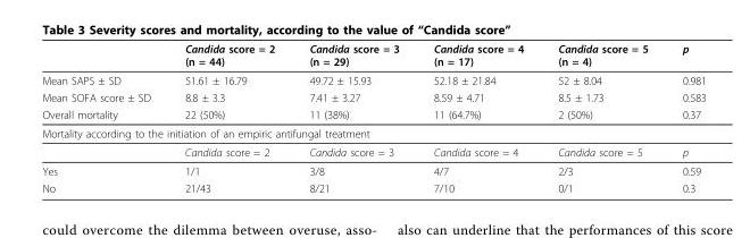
<table><thead><tr><td></td><td>Candida score = 2 (n = 44)</td><td>Candida score = 3 (n = 29)</td><td>Candida score = 4 (n = 17)</td><td>Candida score = 5 (n = 4)</td><td>p</td></tr></thead><tbody><tr><td>Mean SAPS ± SD</td><td>51.61 ± 16.79</td><td>49.72 ± 15.93</td><td>52.18 ± 21.84</td><td>52 ± 8.04</td><td>0.981</td></tr><tr><td>Mean SOFA score ± SD</td><td>8.8 ± 3.3</td><td>7.41 ± 3.27</td><td>8.59 ± 4.71</td><td>8.5 ± 1.73</td><td>0.583</td></tr><tr><td>Overall mortality</td><td>22 (50%)</td><td>11 (38%)</td><td>11 (64.7%)</td><td>2 (50%)</td><td>0.37</td></tr><tr><td colspan="6">Mortality according to the initiation of an empiric antifungal treatment</td></tr><tr><td></td><td>Candida score = 2</td><td>Candida score = 3</td><td>Candida score = 4</td><td>Candida score = 5</td><td>p</td></tr><tr><td>Yes</td><td>1/1</td><td>3/8</td><td>4/7</td><td>2/3</td><td>0.59</td></tr><tr><td>No</td><td>21/43</td><td>8/21</td><td>7/10</td><td>0/1</td><td>0.3</td></tr></tbody></table>